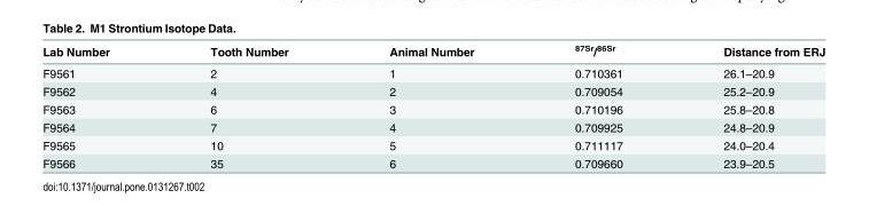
<table><thead><tr><td>Lab Number</td><td>Tooth Number</td><td>Animal Number</td><td><sup>87Sr</sup>/<sup>86Sr</sup></td><td>Distance from ERJ</td></tr></thead><tbody><tr><td>F9561</td><td>2</td><td>1</td><td>0.710361</td><td>26.1–20.9</td></tr><tr><td>F9562</td><td>4</td><td>2</td><td>0.709054</td><td>25.2–20.9</td></tr><tr><td>F9563</td><td>6</td><td>3</td><td>0.710196</td><td>25.8–20.8</td></tr><tr><td>F9564</td><td>7</td><td>4</td><td>0.709925</td><td>24.8–20.9</td></tr><tr><td>F9565</td><td>10</td><td>5</td><td>0.711117</td><td>24.0–20.4</td></tr><tr><td>F9566</td><td>35</td><td>6</td><td>0.709660</td><td>23.9–20.5</td></tr></tbody></table>